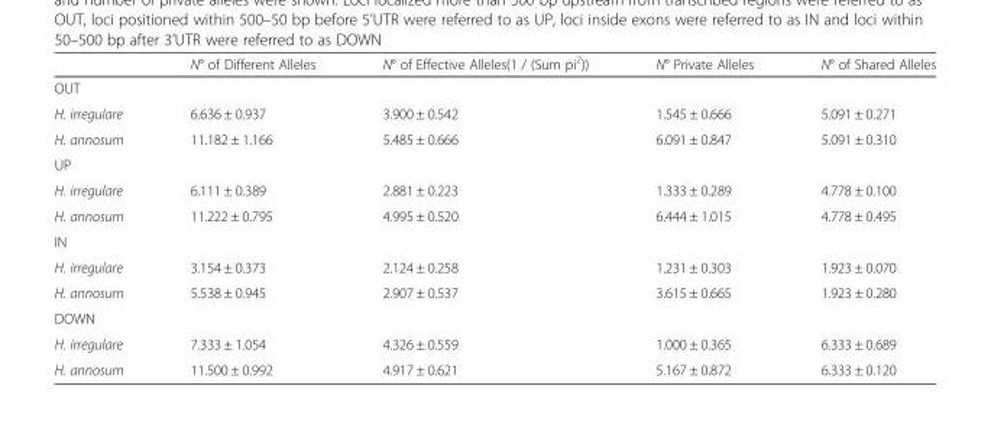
<table><thead><tr><td></td><td>N° of Different Alleles</td><td>N° of Effective Alleles(1 / (Sum pi<sup>2</sup>))</td><td>N° Private Alleles</td><td>N° of Shared Alleles</td></tr></thead><tbody><tr><td colspan="5">OUT</td></tr><tr><td>H. irregulare</td><td>6.636 ± 0.937</td><td>3.900 ± 0.542</td><td>1.545 ± 0.666</td><td>5.091 ± 0.271</td></tr><tr><td>H. annosum</td><td>11.182 ± 1.166</td><td>5.485 ± 0.666</td><td>6.091 ± 0.847</td><td>5.091 ± 0.310</td></tr><tr><td colspan="5">UP</td></tr><tr><td>H. irregulare</td><td>6.111 ± 0.389</td><td>2.881 ± 0.223</td><td>1.333 ± 0.289</td><td>4.778 ± 0.100</td></tr><tr><td>H. annosum</td><td>11.222 ± 0.795</td><td>4.995 ± 0.520</td><td>6.444 ± 1.015</td><td>4.778 ± 0.495</td></tr><tr><td colspan="5">IN</td></tr><tr><td>H. irregulare</td><td>3.154 ± 0.373</td><td>2.124 ± 0.258</td><td>1.231 ± 0.303</td><td>1.923 ± 0.070</td></tr><tr><td>H. annosum</td><td>5.538 ± 0.945</td><td>2.907 ± 0.537</td><td>3.615 ± 0.665</td><td>1.923 ± 0.280</td></tr><tr><td colspan="5">DOWN</td></tr><tr><td>H. irregulare</td><td>7.333 ± 1.054</td><td>4.326 ± 0.559</td><td>1.000 ± 0.365</td><td>6.333 ± 0.689</td></tr><tr><td>H. annosum</td><td>11.500 ± 0.992</td><td>4.917 ± 0.621</td><td>5.167 ± 0.872</td><td>6.333 ± 0.120</td></tr></tbody></table>